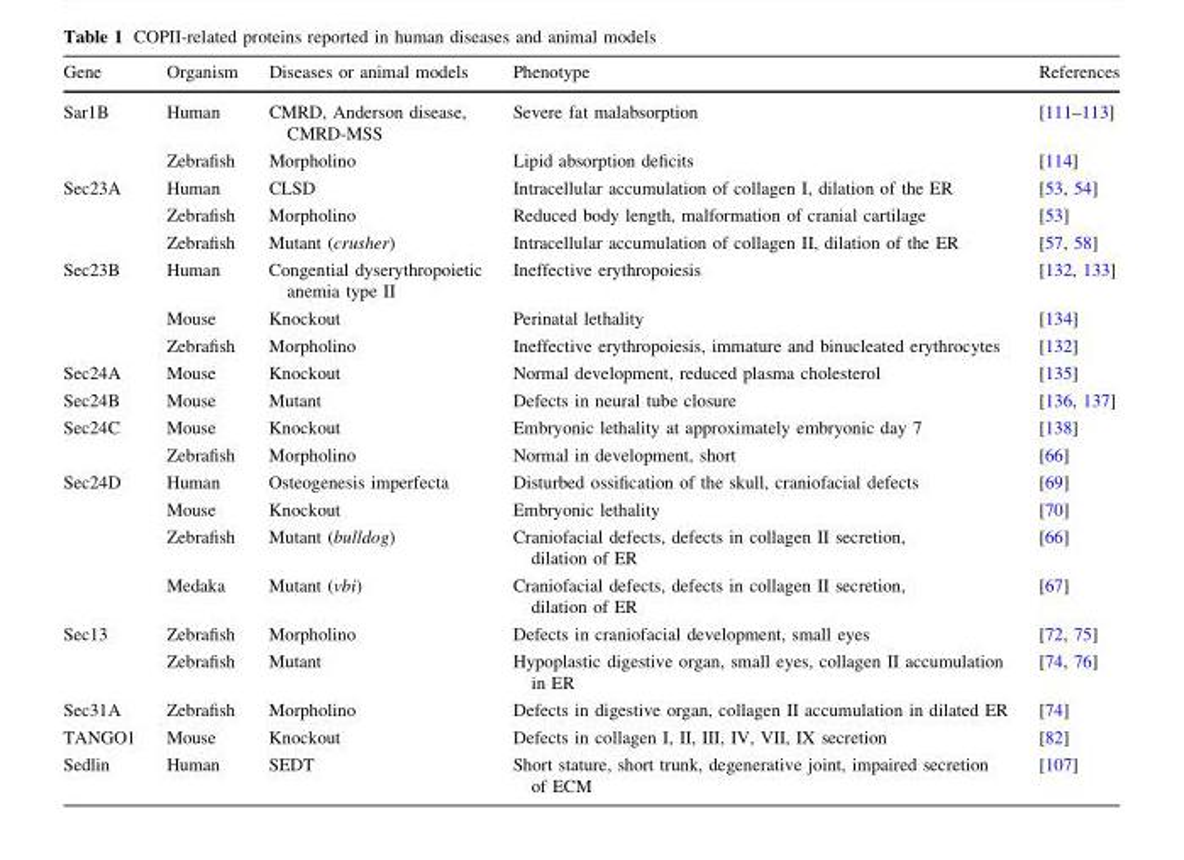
<table><thead><tr><td>Gene</td><td>Organism</td><td>Diseases or animal models</td><td>Phenotype</td><td>References</td></tr></thead><tbody><tr><td rowspan="2">Sar1B</td><td>Human</td><td>CMRD, Anderson disease, CMRD-MSS</td><td>Severe fat malabsorption</td><td>[111–113]</td></tr><tr><td>Zebrafish</td><td>Morpholino</td><td>Lipid absorption deficits</td><td>[114]</td></tr><tr><td rowspan="3">Sec23A</td><td>Human</td><td>CLSD</td><td>Intracellular accumulation of collagen I, dilation of the ER</td><td>[53, 54]</td></tr><tr><td>Zebrafish</td><td>Morpholino</td><td>Reduced body length, malformation of cranial cartilage</td><td>[53]</td></tr><tr><td>Zebrafish</td><td>Mutant (crusher)</td><td>Intracellular accumulation of collagen II, dilation of the ER</td><td>[57, 58]</td></tr><tr><td rowspan="3">Sec23B</td><td>Human</td><td>Congential dyserythropoietic anemia type II</td><td>Ineffective erythropoiesis</td><td>[132, 133]</td></tr><tr><td>Mouse</td><td>Knockout</td><td>Perinatal lethality</td><td>[134]</td></tr><tr><td>Zebrafish</td><td>Morpholino</td><td>Ineffective erythropoiesis, immature and binucleated erythrocytes</td><td>[132]</td></tr><tr><td>Sec24A</td><td>Mouse</td><td>Knockout</td><td>Normal development, reduced plasma cholesterol</td><td>[135]</td></tr><tr><td>Sec24B</td><td>Mouse</td><td>Mutant</td><td>Defects in neural tube closure</td><td>[136, 137]</td></tr><tr><td rowspan="2">Sec24C</td><td>Mouse</td><td>Knockout</td><td>Embryonic lethality at approximately embryonic day 7</td><td>[138]</td></tr><tr><td>Zebrafish</td><td>Morpholino</td><td>Normal in development, short</td><td>[66]</td></tr><tr><td rowspan="4">Sec24D</td><td>Human</td><td>Osteogenesis imperfecta</td><td>Disturbed ossification of the skull, craniofacial defects</td><td>[69]</td></tr><tr><td>Mouse</td><td>Knockout</td><td>Embryonic lethality</td><td>[70]</td></tr><tr><td>Zebrafish</td><td>Mutant (bulldog)</td><td>Craniofacial defects, defects in collagen II secretion, dilation of ER</td><td>[66]</td></tr><tr><td>Medaka</td><td>Mutant (vbi)</td><td>Craniofacial defects, defects in collagen II secretion, dilation of ER</td><td>[67]</td></tr><tr><td rowspan="2">Sec13</td><td>Zebrafish</td><td>Morpholino</td><td>Defects in craniofacial development, small eyes</td><td>[72, 75]</td></tr><tr><td>Zebrafish</td><td>Mutant</td><td>Hypoplastic digestive organ, small eyes, collagen II accumulation in ER</td><td>[74, 76]</td></tr><tr><td>Sec31A</td><td>Zebrafish</td><td>Morpholino</td><td>Defects in digestive organ, collagen II accumulation in dilated ER</td><td>[74]</td></tr><tr><td>TANGO1</td><td>Mouse</td><td>Knockout</td><td>Defects in collagen I, II, III, IV, VII, IX secretion</td><td>[82]</td></tr><tr><td>Sedlin</td><td>Human</td><td>SEDT</td><td>Short stature, short trunk, degenerative joint, impaired secretion of ECM</td><td>[107]</td></tr></tbody></table>